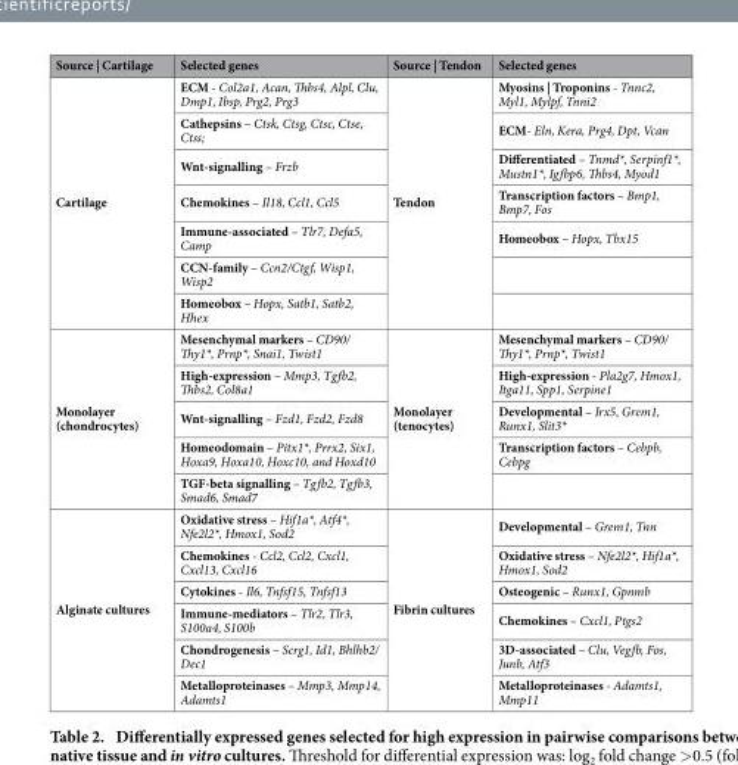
<table><thead><tr><td>Source | Cartilage</td><td>Selected genes</td><td>Source | Tendon</td><td>Selected genes</td></tr></thead><tbody><tr><td rowspan="7">Cartilage</td><td>ECM - Col2a1, Acan, Thbs4, Alpl, Clu, Dmp1, Ibsp, Prg2, Prg3</td><td rowspan="7">Tendon</td><td>Myosins | Troponins - Tnnc2, Myl1, Mylpf, Tnni2</td></tr><tr><td>Cathepsins – Ctsk, Ctsg, Ctsc, Ctse, Ctss;</td><td>ECM- Eln, Kera, Prg4, Dpt, Vcan</td></tr><tr><td>Wnt-signalling – Frzb</td><td>Differentiated – Tnmd*, Serpinf1*, Mustn1*, Igfbp6, Thbs4, Myod1</td></tr><tr><td>Chemokines – Il18, Ccl1, Ccl5</td><td>Transcription factors – Bmp1, Bmp7, Fos</td></tr><tr><td>Immune-associated – Tlr7, Defa5, Camp</td><td>Homeobox – Hopx, Tbx15</td></tr><tr><td>CCN-family – Ccn2/Ctgf, Wisp1, Wisp2</td><td></td></tr><tr><td>Homeobox – Hopx, Satb1, Satb2, Hhex</td><td></td></tr><tr><td rowspan="5">Monolayer (chondrocytes)</td><td>Mesenchymal markers – CD90/ Thy1*, Prnp*, Snai1, Twist1</td><td rowspan="5">Monolayer (tenocytes)</td><td>Mesenchymal markers – CD90/ Thy1*, Prnp*, Twist1</td></tr><tr><td>High-expression – Mmp3, Tgfb2, Thbs2, Col8a1</td><td>High-expression - Pla2g7, Hmox1, Itga11, Spp1, Serpine1</td></tr><tr><td>Wnt-signalling – Fzd1, Fzd2, Fzd8</td><td>Developmental – Irx5, Grem1, Runx1, Slit3*</td></tr><tr><td>Homeodomain – Pitx1*, Prrx2, Six1, Hoxa9, Hoxa10, Hoxc10, and Hoxd10</td><td>Transcription factors – Cebpb, Cebpg</td></tr><tr><td>TGF-beta signalling – Tgfb2, Tgfb3, Smad6, Smad7</td><td></td></tr><tr><td rowspan="6">Alginate cultures</td><td>Oxidative stress – Hif1a*, Atf4*, Nfe2l2*, Hmox1, Sod2</td><td rowspan="6">Fibrin cultures</td><td>Developmental – Grem1, Tnn</td></tr><tr><td>Chemokines - Ccl2, Ccl2, Cxcl1, Cxcl13, Cxcl16</td><td>Oxidative stress – Nfe2l2*, Hif1a*, Hmox1, Sod2</td></tr><tr><td>Cytokines - Il6, Tnfsf15, Tnfsf13</td><td>Osteogenic – Runx1, Gpnmb</td></tr><tr><td>Immune-mediators – Tlr2, Tlr3, S100a4, S100b</td><td>Chemokines – Cxcl1, Ptgs2</td></tr><tr><td>Chondrogenesis – Scrg1, Id1, Bhlhb2/ Dec1</td><td>3D-associated – Clu, Vegfb, Fos, Junb, Atf3</td></tr><tr><td>Metalloproteinases – Mmp3, Mmp14, Adamts1</td><td>Metalloproteinases - Adamts1, Mmp11</td></tr></tbody></table>